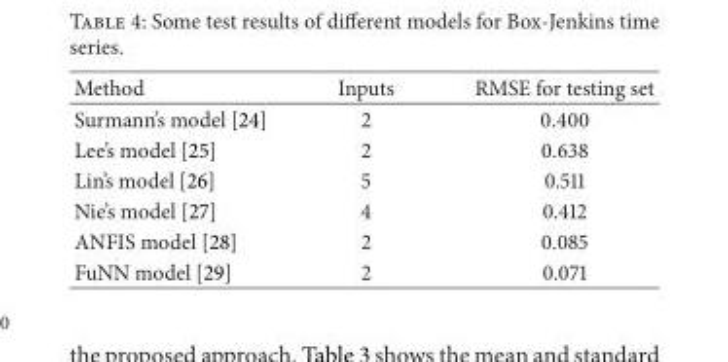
<table><thead><tr><td>Method</td><td>Inputs</td><td>RMSE for testing set</td></tr></thead><tbody><tr><td>Surmann’s model [24]</td><td>2</td><td>0.400</td></tr><tr><td>Lee’s model [25]</td><td>2</td><td>0.638</td></tr><tr><td>Lin’s model [26]</td><td>5</td><td>0.511</td></tr><tr><td>Nie’s model [27]</td><td>4</td><td>0.412</td></tr><tr><td>ANFIS model [28]</td><td>2</td><td>0.085</td></tr><tr><td>FuNN model [29]</td><td>2</td><td>0.071</td></tr></tbody></table>